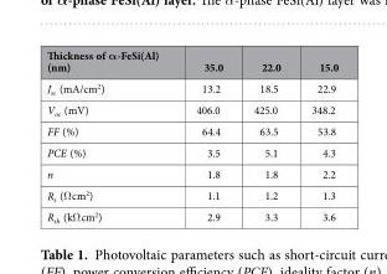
<table><thead><tr><td>Thickness of α-FeSi(Al) (nm)</td><td>35.0</td><td>22.0</td><td>15.0</td></tr></thead><tbody><tr><td>J<sub>sc</sub> (mA/cm<sup>2</sup>)</td><td>13.2</td><td>18.5</td><td>22.9</td></tr><tr><td>V<sub>oc</sub> (mV)</td><td>406.0</td><td>425.0</td><td>348.2</td></tr><tr><td>FF (%)</td><td>64.4</td><td>63.5</td><td>53.8</td></tr><tr><td>PCE (%)</td><td>3.5</td><td>5.1</td><td>4.3</td></tr><tr><td>n</td><td>1.8</td><td>1.8</td><td>2.2</td></tr><tr><td>R<sub>s</sub> (Ω cm<sup>2</sup>)</td><td>1.1</td><td>1.2</td><td>1.3</td></tr><tr><td>R<sub>sh</sub> (kΩ cm<sup>2</sup>)</td><td>2.9</td><td>3.3</td><td>3.6</td></tr></tbody></table>